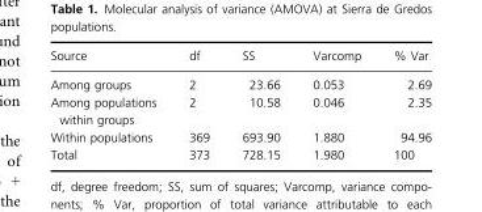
<table><thead><tr><td>Source</td><td>df</td><td>SS</td><td>Varcomp</td><td>% Var</td></tr></thead><tbody><tr><td>Among groups</td><td>2</td><td>23.66</td><td>0.053</td><td>2.69</td></tr><tr><td>Among populations within groups</td><td>2</td><td>10.58</td><td>0.046</td><td>2.35</td></tr><tr><td>Within populations</td><td>369</td><td>693.90</td><td>1.880</td><td>94.96</td></tr><tr><td>Total</td><td>373</td><td>728.15</td><td>1.980</td><td>100</td></tr></tbody></table>